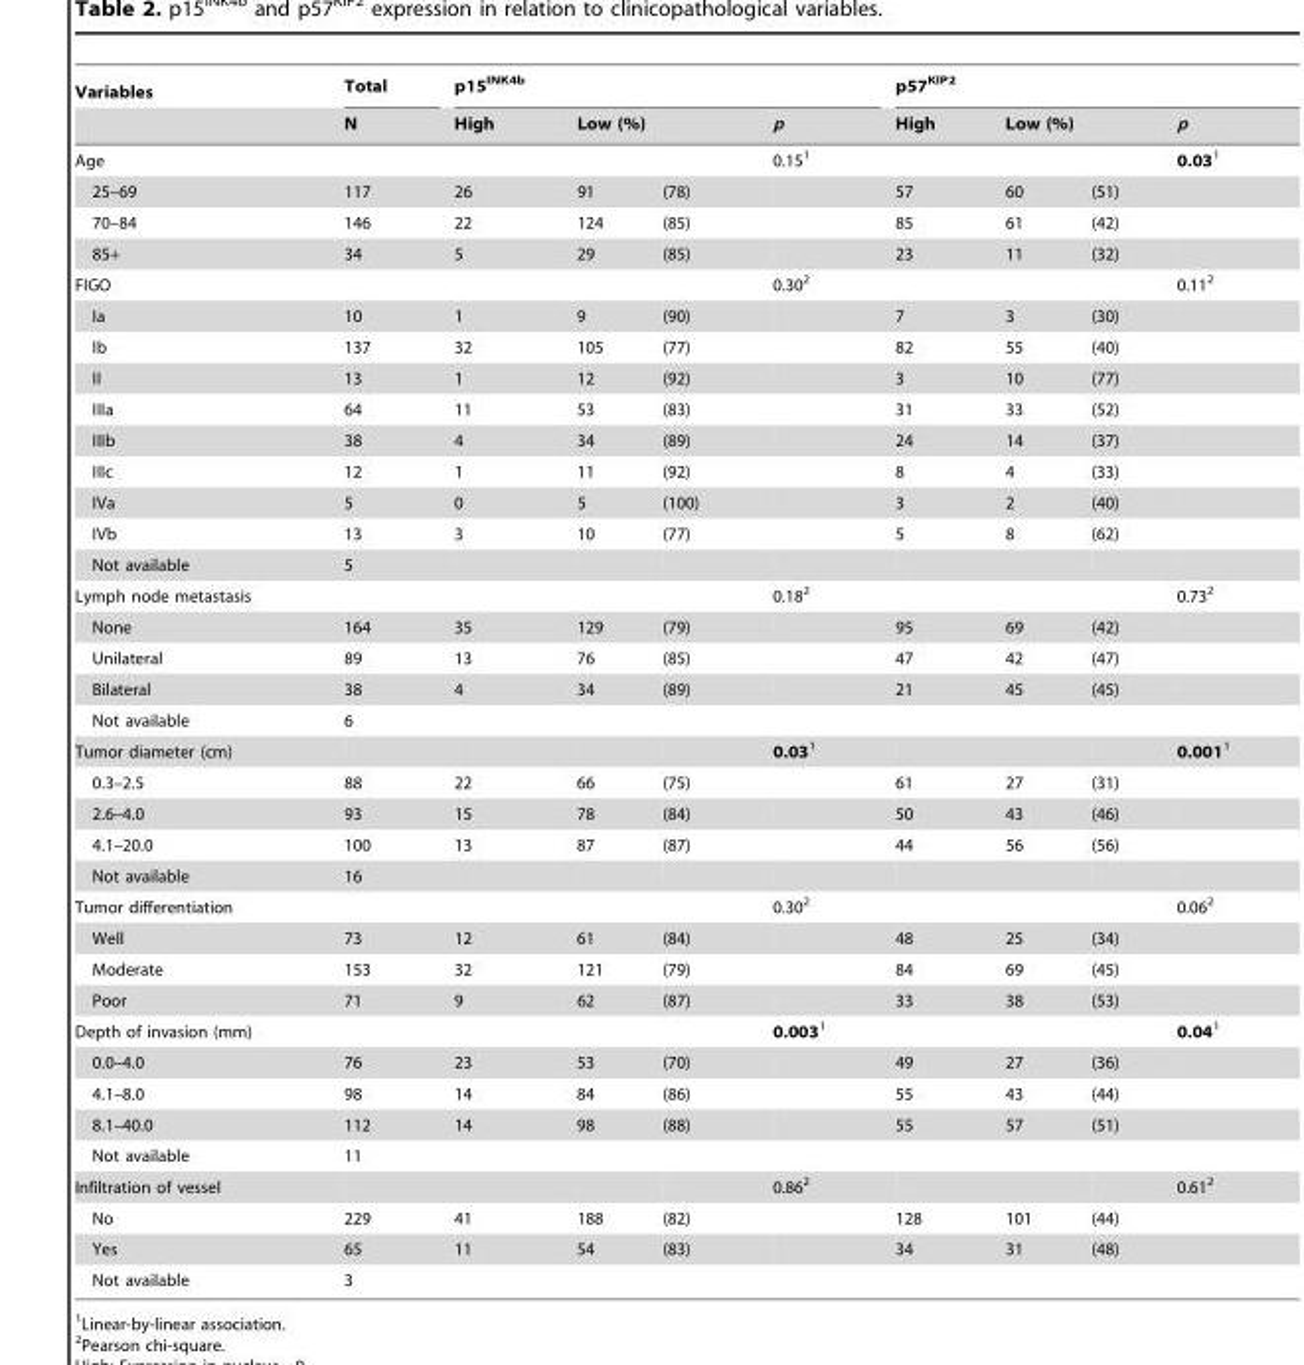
<table><thead><tr><td rowspan="3">Variables Age</td><td rowspan="3">Total N</td><td colspan="4">p15<sup>INK4b</sup></td><td colspan="4">p57<sup>KIP2</sup></td></tr><tr><td rowspan="2">High</td><td colspan="2">Low (%)</td><td rowspan="2">p 0.15<sup>1</sup></td><td rowspan="2">High</td><td colspan="2">Low (%)</td><td rowspan="2">p 0.031</td></tr><tr><td></td><td></td><td></td><td></td></tr></thead><tbody><tr><td>25–69</td><td>117</td><td>26</td><td>91</td><td>(78)</td><td></td><td>57</td><td>60</td><td>(51)</td><td></td></tr><tr><td>70–84</td><td>146</td><td>22</td><td>124</td><td>(85)</td><td></td><td>85</td><td>61</td><td>(42)</td><td></td></tr><tr><td>85+</td><td>34</td><td>5</td><td>29</td><td>(85)</td><td></td><td>23</td><td>11</td><td>(32)</td><td></td></tr><tr><td>FIGO</td><td></td><td></td><td></td><td></td><td>0.30<sup>2</sup></td><td></td><td></td><td></td><td>0.11<sup>2</sup></td></tr><tr><td>Ia</td><td>10</td><td>1</td><td>9</td><td>(90)</td><td></td><td>7</td><td>3</td><td>(30)</td><td></td></tr><tr><td>Ib</td><td>137</td><td>32</td><td>105</td><td>(77)</td><td></td><td>82</td><td>55</td><td>(40)</td><td></td></tr><tr><td>II</td><td>13</td><td>1</td><td>12</td><td>(92)</td><td></td><td>3</td><td>10</td><td>(77)</td><td></td></tr><tr><td>IIIa</td><td>64</td><td>11</td><td>53</td><td>(83)</td><td></td><td>31</td><td>33</td><td>(52)</td><td></td></tr><tr><td>IIIb</td><td>38</td><td>4</td><td>34</td><td>(89)</td><td></td><td>24</td><td>14</td><td>(37)</td><td></td></tr><tr><td>IIIc</td><td>12</td><td>1</td><td>11</td><td>(92)</td><td></td><td>8</td><td>4</td><td>(33)</td><td></td></tr><tr><td>IVa</td><td>5</td><td>0</td><td>5</td><td>(100)</td><td></td><td>3</td><td>2</td><td>(40)</td><td></td></tr><tr><td>IVb</td><td>13</td><td>3</td><td>10</td><td>(77)</td><td></td><td>5</td><td>8</td><td>(62)</td><td></td></tr><tr><td>Not available</td><td>5</td><td></td><td></td><td></td><td></td><td></td><td></td><td></td><td></td></tr><tr><td>Lymph node metastasis</td><td></td><td></td><td></td><td></td><td>0.18<sup>2</sup></td><td></td><td></td><td></td><td>0.73<sup>2</sup></td></tr><tr><td>None</td><td>164</td><td>35</td><td>129</td><td>(79)</td><td></td><td>95</td><td>69</td><td>(42)</td><td></td></tr><tr><td>Unilateral</td><td>89</td><td>13</td><td>76</td><td>(85)</td><td></td><td>47</td><td>42</td><td>(47)</td><td></td></tr><tr><td>Bilateral</td><td>38</td><td>4</td><td>34</td><td>(89)</td><td></td><td>21</td><td>45</td><td>(45)</td><td></td></tr><tr><td>Not available</td><td>6</td><td></td><td></td><td></td><td></td><td></td><td></td><td></td><td></td></tr><tr><td>Tumor diameter (cm)</td><td></td><td></td><td></td><td></td><td>0.031</td><td></td><td></td><td></td><td>0.0011</td></tr><tr><td>0.3–2.5</td><td>88</td><td>22</td><td>66</td><td>(75)</td><td></td><td>61</td><td>27</td><td>(31)</td><td></td></tr><tr><td>2.6–4.0</td><td>93</td><td>15</td><td>78</td><td>(84)</td><td></td><td>50</td><td>43</td><td>(46)</td><td></td></tr><tr><td>4.1–20.0</td><td>100</td><td>13</td><td>87</td><td>(87)</td><td></td><td>44</td><td>56</td><td>(56)</td><td></td></tr><tr><td>Not available</td><td>16</td><td></td><td></td><td></td><td></td><td></td><td></td><td></td><td></td></tr><tr><td>Tumor differentiation</td><td></td><td></td><td></td><td></td><td>0.30<sup>2</sup></td><td></td><td></td><td></td><td>0.06<sup>2</sup></td></tr><tr><td>Well</td><td>73</td><td>12</td><td>61</td><td>(84)</td><td></td><td>48</td><td>25</td><td>(34)</td><td></td></tr><tr><td>Moderate</td><td>153</td><td>32</td><td>121</td><td>(79)</td><td></td><td>84</td><td>69</td><td>(45)</td><td></td></tr><tr><td>Poor</td><td>71</td><td>9</td><td>62</td><td>(87)</td><td></td><td>33</td><td>38</td><td>(53)</td><td></td></tr><tr><td>Depth of invasion (mm)</td><td></td><td></td><td></td><td></td><td>0.0031</td><td></td><td></td><td></td><td>0.041</td></tr><tr><td>0.0–4.0</td><td>76</td><td>23</td><td>53</td><td>(70)</td><td></td><td>49</td><td>27</td><td>(36)</td><td></td></tr><tr><td>4.1–8.0</td><td>98</td><td>14</td><td>84</td><td>(86)</td><td></td><td>55</td><td>43</td><td>(44)</td><td></td></tr><tr><td>8.1–40.0</td><td>112</td><td>14</td><td>98</td><td>(88)</td><td></td><td>55</td><td>57</td><td>(51)</td><td></td></tr><tr><td>Not available</td><td>11</td><td></td><td></td><td></td><td></td><td></td><td></td><td></td><td></td></tr><tr><td>Infiltration of vessel</td><td></td><td></td><td></td><td></td><td>0.86<sup>2</sup></td><td></td><td></td><td></td><td>0.61<sup>2</sup></td></tr><tr><td>No</td><td>229</td><td>41</td><td>188</td><td>(82)</td><td></td><td>128</td><td>101</td><td>(44)</td><td></td></tr><tr><td>Yes</td><td>65</td><td>11</td><td>54</td><td>(83)</td><td></td><td>34</td><td>31</td><td>(48)</td><td></td></tr><tr><td>Not available</td><td>3</td><td></td><td></td><td></td><td></td><td></td><td></td><td></td><td></td></tr></tbody></table>